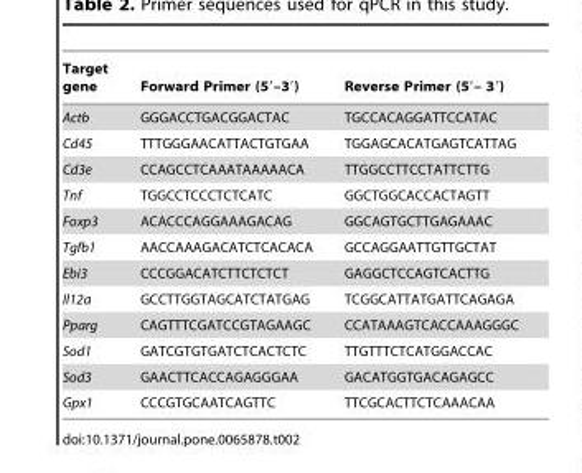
<table><thead><tr><td>Target gene</td><td>Forward Primer (5′–3′)</td><td>Reverse Primer (5′– 3′)</td></tr></thead><tbody><tr><td>Actb</td><td>GGGACCTGACGGACTAC</td><td>TGCCACAGGATTCCATAC</td></tr><tr><td>Cd45</td><td>TTTGGGAACATTACTGTGAA</td><td>TGGAGCACATGAGTCATTAG</td></tr><tr><td>Cd3e</td><td>CCAGCCTCAAATAAAAACA</td><td>TTGGCCTTCCTATTCTTG</td></tr><tr><td>Tnf</td><td>TGGCCTCCCTCTCATC</td><td>GGCTGGCACCACTAGTT</td></tr><tr><td>Foxp3</td><td>ACACCCAGGAAAGACAG</td><td>GGCAGTGCTTGAGAAAC</td></tr><tr><td>Tgfb1</td><td>AACCAAAGACATCTCACACA</td><td>GCCAGGAATTGTTGCTAT</td></tr><tr><td>Ebi3</td><td>CCCGGACATCTTCTCTCT</td><td>GAGGCTCCAGTCACTTG</td></tr><tr><td>Il12a</td><td>GCCTTGGTAGCATCTATGAG</td><td>TCGGCATTATGATTCAGAGA</td></tr><tr><td>Pparg</td><td>CAGTTTCGATCCGTAGAAGC</td><td>CCATAAAGTCACCAAAGGGC</td></tr><tr><td>Sod1</td><td>GATCGTGTGATCTCACTCTC</td><td>TTGTTTCTCATGGACCAC</td></tr><tr><td>Sod3</td><td>GAACTTCACCAGAGGGAA</td><td>GACATGGTGACAGAGCC</td></tr><tr><td>Gpx1</td><td>CCCGTGCAATCAGTTC</td><td>TTCGCACTTCTCAAACAA</td></tr></tbody></table>